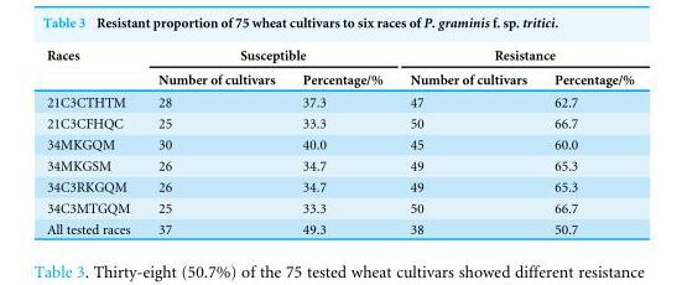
<table><thead><tr><td rowspan="2">Races</td><td colspan="2">Susceptible</td><td colspan="2">Resistance</td></tr><tr><td>Number of cultivars</td><td>Percentage/%</td><td>Number of cultivars</td><td>Percentage/%</td></tr></thead><tbody><tr><td>21C3CTHTM</td><td>28</td><td>37.3</td><td>47</td><td>62.7</td></tr><tr><td>21C3CFHQC</td><td>25</td><td>33.3</td><td>50</td><td>66.7</td></tr><tr><td>34MKGQM</td><td>30</td><td>40.0</td><td>45</td><td>60.0</td></tr><tr><td>34MKGSM</td><td>26</td><td>34.7</td><td>49</td><td>65.3</td></tr><tr><td>34C3RKGQM</td><td>26</td><td>34.7</td><td>49</td><td>65.3</td></tr><tr><td>34C3MTGQM</td><td>25</td><td>33.3</td><td>50</td><td>66.7</td></tr><tr><td>All tested races</td><td>37</td><td>49.3</td><td>38</td><td>50.7</td></tr></tbody></table>